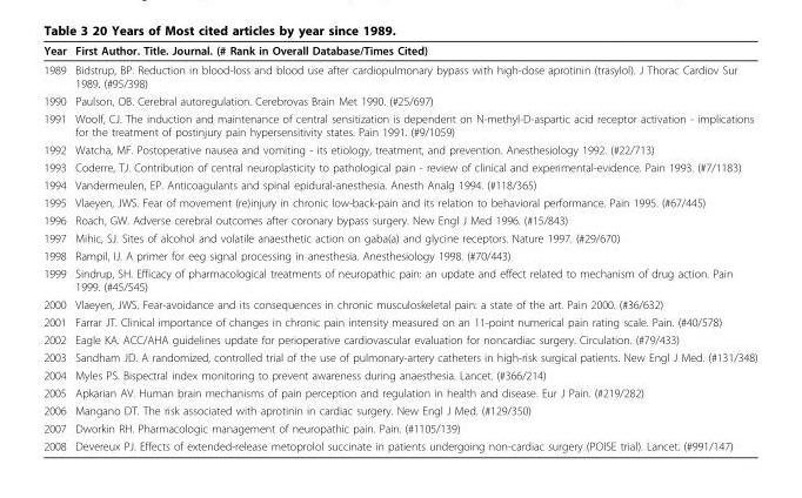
<table><thead><tr><td>Year</td><td>First Author. Title. Journal. (# Rank in Overall Database/Times Cited)</td></tr></thead><tbody><tr><td>1989</td><td>Bidstrup, BP. Reduction in blood-loss and blood use after cardiopulmonary bypass with high-dose aprotinin (trasylol). J Thorac Cardiov Sur 1989. (#95/398)</td></tr><tr><td>1990</td><td>Paulson, OB. Cerebral autoregulation. Cerebrovas Brain Met 1990. (#25/697)</td></tr><tr><td>1991</td><td>Woolf, CJ. The induction and maintenance of central sensitization is dependent on N-methyl-D-aspartic acid receptor activation - implications for the treatment of postinjury pain hypersensitivity states. Pain 1991. (#9/1059)</td></tr><tr><td>1992</td><td>Watcha, MF. Postoperative nausea and vomiting - its etiology, treatment, and prevention. Anesthesiology 1992. (#22/713)</td></tr><tr><td>1993</td><td>Coderre, TJ. Contribution of central neuroplasticity to pathological pain - review of clinical and experimental-evidence. Pain 1993. (#7/1183)</td></tr><tr><td>1994</td><td>Vandermeulen, EP. Anticoagulants and spinal epidural-anesthesia. Anesth Analg 1994. (#118/365)</td></tr><tr><td>1995</td><td>Vlaeyen, JWS. Fear of movement (re)injury in chronic low-back-pain and its relation to behavioral performance. Pain 1995. (#67/445)</td></tr><tr><td>1996</td><td>Roach, GW. Adverse cerebral outcomes after coronary bypass surgery. New Engl J Med 1996. (#15/843)</td></tr><tr><td>1997</td><td>Mihic, SJ. Sites of alcohol and volatile anaesthetic action on gaba(a) and glycine receptors. Nature 1997. (#29/670)</td></tr><tr><td>1998</td><td>Rampil, IJ. A primer for eeg signal processing in anesthesia. Anesthesiology 1998. (#70/443)</td></tr><tr><td>1999</td><td>Sindrup, SH. Efficacy of pharmacological treatments of neuropathic pain: an update and effect related to mechanism of drug action. Pain 1999. (#45/545)</td></tr><tr><td>2000</td><td>Vlaeyen, JWS. Fear-avoidance and its consequences in chronic musculoskeletal pain: a state of the art. Pain 2000. (#36/632)</td></tr><tr><td>2001</td><td>Farrar JT. Clinical importance of changes in chronic pain intensity measured on an 11-point numerical pain rating scale. Pain. (#40/578)</td></tr><tr><td>2002</td><td>Eagle KA. ACC/AHA guidelines update for perioperative cardiovascular evaluation for noncardiac surgery. Circulation. (#79/433)</td></tr><tr><td>2003</td><td>Sandham JD. A randomized, controlled trial of the use of pulmonary-artery catheters in high-risk surgical patients. New Engl J Med. (#131/348)</td></tr><tr><td>2004</td><td>Myles PS. Bispectral index monitoring to prevent awareness during anaesthesia. Lancet. (#366/214)</td></tr><tr><td>2005</td><td>Apkarian AV. Human brain mechanisms of pain perception and regulation in health and disease. Eur J Pain. (#219/282)</td></tr><tr><td>2006</td><td>Mangano DT. The risk associated with aprotinin in cardiac surgery. New Engl J Med. (#129/350)</td></tr><tr><td>2007</td><td>Dworkin RH. Pharmacologic management of neuropathic pain. Pain. (#1105/139)</td></tr><tr><td>2008</td><td>Devereux PJ. Effects of extended-release metoprolol succinate in patients undergoing non-cardiac surgery (POISE trial). Lancet. (#991/147)</td></tr></tbody></table>